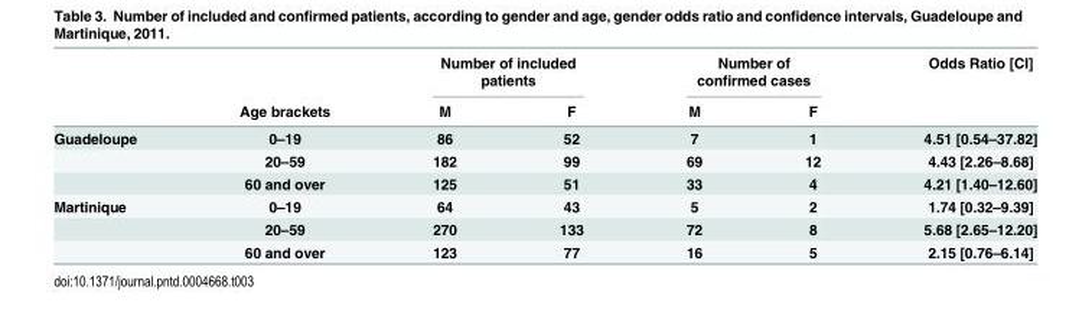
<table><thead><tr><td rowspan="2"></td><td rowspan="2">Age brackets</td><td colspan="2">Number of included patients</td><td colspan="2">Number of confirmed cases</td><td rowspan="2">Odds Ratio [CI]</td></tr><tr><td>M</td><td>F</td><td>M</td><td>F</td></tr></thead><tbody><tr><td rowspan="3">Guadeloupe</td><td>0–19</td><td>86</td><td>52</td><td>7</td><td>1</td><td>4.51 [0.54–37.82]</td></tr><tr><td>20–59</td><td>182</td><td>99</td><td>69</td><td>12</td><td>4.43 [2.26–8.68]</td></tr><tr><td>60 and over</td><td>125</td><td>51</td><td>33</td><td>4</td><td>4.21 [1.40–12.60]</td></tr><tr><td rowspan="3">Martinique</td><td>0–19</td><td>64</td><td>43</td><td>5</td><td>2</td><td>1.74 [0.32–9.39]</td></tr><tr><td>20–59</td><td>270</td><td>133</td><td>72</td><td>8</td><td>5.68 [2.65–12.20]</td></tr><tr><td>60 and over</td><td>123</td><td>77</td><td>16</td><td>5</td><td>2.15 [0.76–6.14]</td></tr></tbody></table>